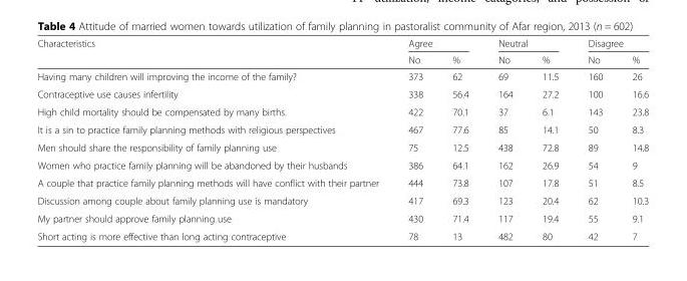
<table><thead><tr><td rowspan="2">Characteristics</td><td colspan="2">Agree</td><td colspan="2">Neutral</td><td colspan="2">Disagree</td></tr><tr><td>No</td><td>%</td><td>No</td><td>%</td><td>No</td><td>%</td></tr></thead><tbody><tr><td>Having many children will improving the income of the family?</td><td>373</td><td>62</td><td>69</td><td>11.5</td><td>160</td><td>26</td></tr><tr><td>Contraceptive use causes infertility</td><td>338</td><td>56.4</td><td>164</td><td>27.2</td><td>100</td><td>16.6</td></tr><tr><td>High child mortality should be compensated by many births.</td><td>422</td><td>70.1</td><td>37</td><td>6.1</td><td>143</td><td>23.8</td></tr><tr><td>It is a sin to practice family planning methods with religious perspectives</td><td>467</td><td>77.6</td><td>85</td><td>14.1</td><td>50</td><td>8.3</td></tr><tr><td>Men should share the responsibility of family planning use</td><td>75</td><td>12.5</td><td>438</td><td>72.8</td><td>89</td><td>14.8</td></tr><tr><td>Women who practice family planning will be abandoned by their husbands</td><td>386</td><td>64.1</td><td>162</td><td>26.9</td><td>54</td><td>9</td></tr><tr><td>A couple that practice family planning methods will have conflict with their partner</td><td>444</td><td>73.8</td><td>107</td><td>17.8</td><td>51</td><td>8.5</td></tr><tr><td>Discussion among couple about family planning use is mandatory</td><td>417</td><td>69.3</td><td>123</td><td>20.4</td><td>62</td><td>10.3</td></tr><tr><td>My partner should approve family planning use</td><td>430</td><td>71.4</td><td>117</td><td>19.4</td><td>55</td><td>9.1</td></tr><tr><td>Short acting is more effective than long acting contraceptive</td><td>78</td><td>13</td><td>482</td><td>80</td><td>42</td><td>7</td></tr></tbody></table>